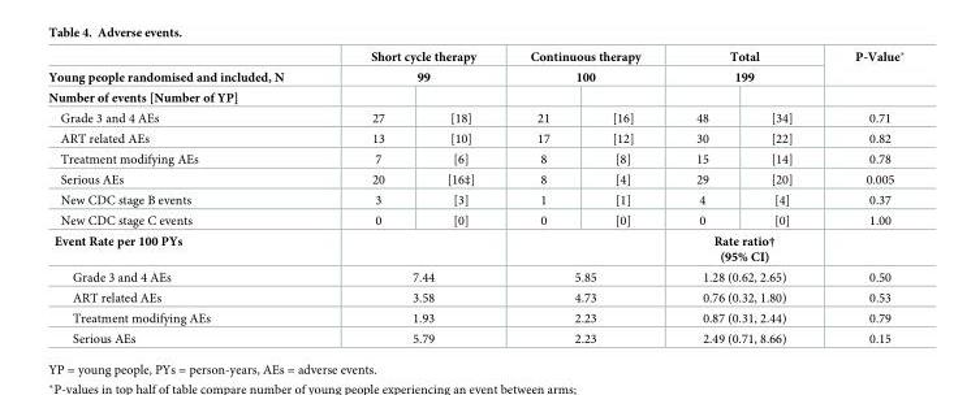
<table><thead><tr><td rowspan="3">Young people randomised and included, N Number of events [Number of YP]</td><td rowspan="2" colspan="2">Short cycle therapy 99</td><td rowspan="2" colspan="2">Continuous therapy 100</td><td rowspan="2" colspan="2">Total 199</td><td rowspan="3">P-Value*</td></tr><tr></tr><tr><td></td><td></td><td></td><td></td><td></td><td></td></tr></thead><tbody><tr><td>Grade 3 and 4 AEs</td><td>27</td><td>[18]</td><td>21</td><td>[16]</td><td>48</td><td>[34]</td><td>0.71</td></tr><tr><td>ART related AEs</td><td>13</td><td>[10]</td><td>17</td><td>[12]</td><td>30</td><td>[22]</td><td>0.82</td></tr><tr><td>Treatment modifying AEs</td><td>7</td><td>[6]</td><td>8</td><td>[8]</td><td>15</td><td>[14]</td><td>0.78</td></tr><tr><td>Serious AEs</td><td>20</td><td>[16‡]</td><td>8</td><td>[4]</td><td>29</td><td>[20]</td><td>0.005</td></tr><tr><td>New CDC stage B events</td><td>3</td><td>[3]</td><td>1</td><td>[1]</td><td>4</td><td>[4]</td><td>0.37</td></tr><tr><td>New CDC stage C events</td><td>0</td><td>[0]</td><td>0</td><td>[0]</td><td>0</td><td>[0]</td><td>1.00</td></tr><tr><td>Event Rate per 100 PYs</td><td colspan="2"></td><td colspan="2"></td><td colspan="2">Rate ratio† (95% CI)</td><td></td></tr><tr><td>Grade 3 and 4 AEs</td><td colspan="2">7.44</td><td colspan="2">5.85</td><td colspan="2">1.28 (0.62, 2.65)</td><td>0.50</td></tr><tr><td>ART related AEs</td><td colspan="2">3.58</td><td colspan="2">4.73</td><td colspan="2">0.76 (0.32, 1.80)</td><td>0.53</td></tr><tr><td>Treatment modifying AEs</td><td colspan="2">1.93</td><td colspan="2">2.23</td><td colspan="2">0.87 (0.31, 2.44)</td><td>0.79</td></tr><tr><td>Serious AEs</td><td colspan="2">5.79</td><td colspan="2">2.23</td><td colspan="2">2.49 (0.71, 8.66)</td><td>0.15</td></tr></tbody></table>